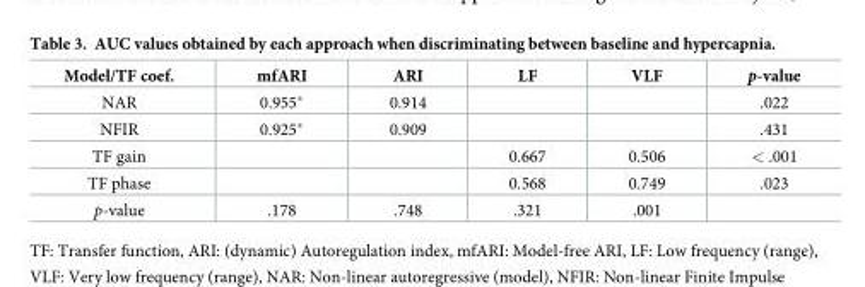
<table><thead><tr><td>Model/TF coef.</td><td>mfARI</td><td>ARI</td><td>LF</td><td>VLF</td><td>p-value</td></tr></thead><tbody><tr><td>NAR</td><td>0.955*</td><td>0.914</td><td></td><td></td><td>.022</td></tr><tr><td>NFIR</td><td>0.925*</td><td>0.909</td><td></td><td></td><td>.431</td></tr><tr><td>TF gain</td><td></td><td></td><td>0.667</td><td>0.506</td><td>&lt; .001</td></tr><tr><td>TF phase</td><td></td><td></td><td>0.568</td><td>0.749</td><td>.023</td></tr><tr><td>p-value</td><td>.178</td><td>.748</td><td>.321</td><td>.001</td><td></td></tr></tbody></table>